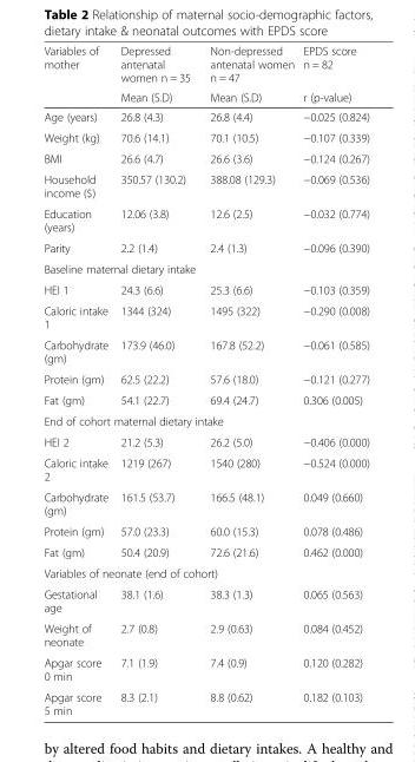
<table><thead><tr><td rowspan="2">Variables of mother</td><td rowspan="2">Depressed antenatal women n = 35 Mean (S.D)</td><td rowspan="2">Non-depressed antenatal women n = 47 Mean (S.D)</td><td rowspan="2">EPDS score n = 82 r (p-value)</td></tr><tr></tr></thead><tbody><tr><td>Age (years)</td><td>26.8 (4.3)</td><td>26.8 (4.4)</td><td>−0.025 (0.824)</td></tr><tr><td>Weight (kg)</td><td>70.6 (14.1)</td><td>70.1 (10.5)</td><td>−0.107 (0.339)</td></tr><tr><td>BMI</td><td>26.6 (4.7)</td><td>26.6 (3.6)</td><td>−0.124 (0.267)</td></tr><tr><td>Household income ($)</td><td>350.57 (130.2)</td><td>388.08 (129.3)</td><td>−0.069 (0.536)</td></tr><tr><td>Education (years)</td><td>12.06 (3.8)</td><td>12.6 (2.5)</td><td>−0.032 (0.774)</td></tr><tr><td>Parity</td><td>2.2 (1.4)</td><td>2.4 (1.3)</td><td>−0.096 (0.390)</td></tr><tr><td colspan="4">Baseline maternal dietary intake</td></tr><tr><td>HEI 1</td><td>24.3 (6.6)</td><td>25.3 (6.6)</td><td>−0.103 (0.359)</td></tr><tr><td>Caloric intake 1</td><td>1344 (324)</td><td>1495 (322)</td><td>−0.290 (0.008)</td></tr><tr><td>Carbohydrate (gm)</td><td>173.9 (46.0)</td><td>167.8 (52.2)</td><td>−0.061 (0.585)</td></tr><tr><td>Protein (gm)</td><td>62.5 (22.2)</td><td>57.6 (18.0)</td><td>−0.121 (0.277)</td></tr><tr><td>Fat (gm)</td><td>54.1 (22.7)</td><td>69.4 (24.7)</td><td>0.306 (0.005)</td></tr><tr><td colspan="4">End of cohort maternal dietary intake</td></tr><tr><td>HEI 2</td><td>21.2 (5.3)</td><td>26.2 (5.0)</td><td>−0.406 (0.000)</td></tr><tr><td>Caloric intake 2</td><td>1219 (267)</td><td>1540 (280)</td><td>−0.524 (0.000)</td></tr><tr><td>Carbohydrate (gm)</td><td>161.5 (53.7)</td><td>166.5 (48.1)</td><td>0.049 (0.660)</td></tr><tr><td>Protein (gm)</td><td>57.0 (23.3)</td><td>60.0 (15.3)</td><td>0.078 (0.486)</td></tr><tr><td>Fat (gm)</td><td>50.4 (20.9)</td><td>72.6 (21.6)</td><td>0.462 (0.000)</td></tr><tr><td colspan="4">Variables of neonate (end of cohort)</td></tr><tr><td>Gestational age</td><td>38.1 (1.6)</td><td>38.3 (1.3)</td><td>0.065 (0.563)</td></tr><tr><td>Weight of neonate</td><td>2.7 (0.8)</td><td>2.9 (0.63)</td><td>0.084 (0.452)</td></tr><tr><td>Apgar score 0 min</td><td>7.1 (1.9)</td><td>7.4 (0.9)</td><td>0.120 (0.282)</td></tr><tr><td>Apgar score 5 min</td><td>8.3 (2.1)</td><td>8.8 (0.62)</td><td>0.182 (0.103)</td></tr></tbody></table>